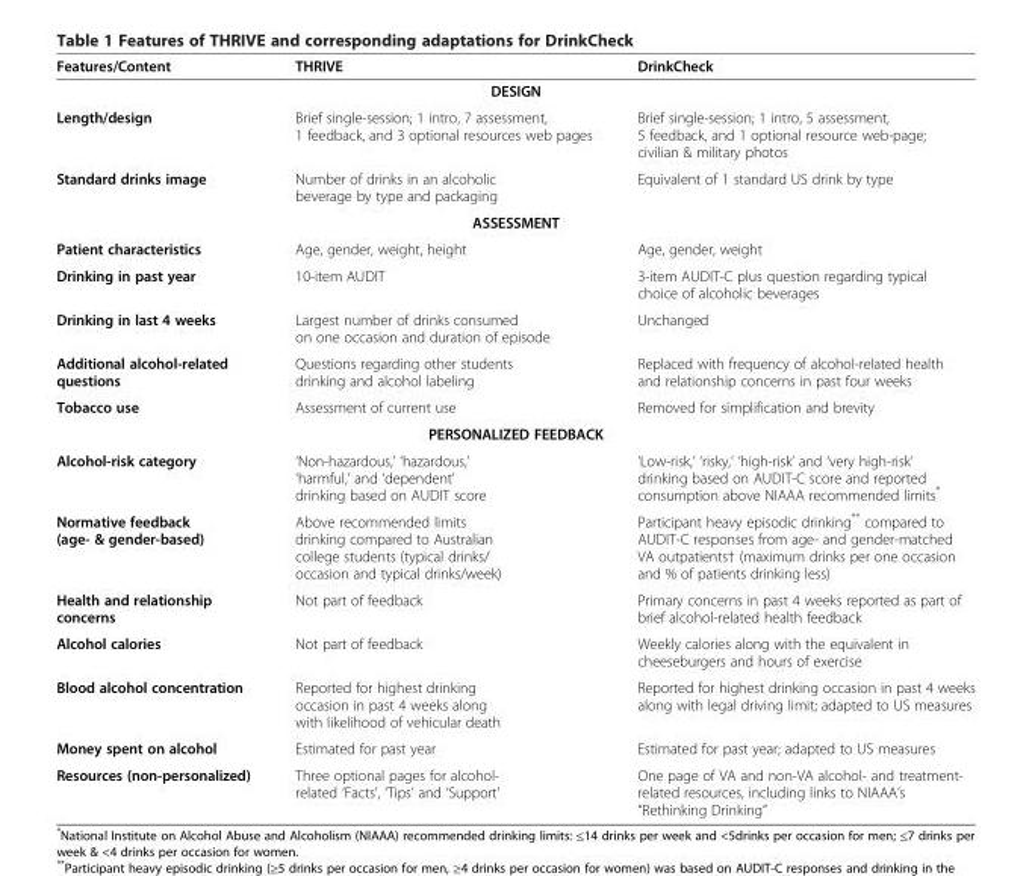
<table><thead><tr><td>Features/Content</td><td>THRIVE</td><td>DrinkCheck</td></tr></thead><tbody><tr><td colspan="3">DESIGN</td></tr><tr><td>Length/design</td><td>Brief single-session; 1 intro, 7 assessment, 1 feedback, and 3 optional resources web pages</td><td>Brief single-session; 1 intro, 5 assessment, 5 feedback, and 1 optional resource web-page; civilian &amp; military photos</td></tr><tr><td>Standard drinks image</td><td>Number of drinks in an alcoholic beverage by type and packaging</td><td>Equivalent of 1 standard US drink by type</td></tr><tr><td colspan="3">ASSESSMENT</td></tr><tr><td>Patient characteristics</td><td>Age, gender, weight, height</td><td>Age, gender, weight</td></tr><tr><td>Drinking in past year</td><td>10-item AUDIT</td><td>3-item AUDIT-C plus question regarding typical choice of alcoholic beverages</td></tr><tr><td>Drinking in last 4 weeks</td><td>Largest number of drinks consumed on one occasion and duration of episode</td><td>Unchanged</td></tr><tr><td>Additional alcohol-related questions</td><td>Questions regarding other students drinking and alcohol labeling</td><td>Replaced with frequency of alcohol-related health and relationship concerns in past four weeks</td></tr><tr><td>Tobacco use</td><td>Assessment of current use</td><td>Removed for simplification and brevity</td></tr><tr><td colspan="3">PERSONALIZED FEEDBACK</td></tr><tr><td>Alcohol-risk category</td><td>‘Non-hazardous,’ ‘hazardous,’ ‘harmful,’ and ‘dependent’ drinking based on AUDIT score</td><td>‘Low-risk,’ ‘risky,’ ‘high-risk’ and ‘very high-risk’ drinking based on AUDIT-C score and reported consumption above NIAAA recommended limits*</td></tr><tr><td>Normative feedback (age- &amp; gender-based)</td><td>Above recommended limits drinking compared to Australian college students (typical drinks/ occasion and typical drinks/week)</td><td>Participant heavy episodic drinking** compared to AUDIT-C responses from age- and gender-matched VA outpatients† (maximum drinks per one occasion and % of patients drinking less)</td></tr><tr><td>Health and relationship concerns</td><td>Not part of feedback</td><td>Primary concerns in past 4 weeks reported as part of brief alcohol-related health feedback</td></tr><tr><td>Alcohol calories</td><td>Not part of feedback</td><td>Weekly calories along with the equivalent in cheeseburgers and hours of exercise</td></tr><tr><td>Blood alcohol concentration</td><td>Reported for highest drinking occasion in past 4 weeks along with likelihood of vehicular death</td><td>Reported for highest drinking occasion in past 4 weeks along with legal driving limit; adapted to US measures</td></tr><tr><td>Money spent on alcohol</td><td>Estimated for past year</td><td>Estimated for past year; adapted to US measures</td></tr><tr><td>Resources (non-personalized)</td><td>Three optional pages for alcohol- related ‘Facts’, ‘Tips’ and ‘Support’</td><td>One page of VA and non-VA alcohol- and treatment- related resources, including links to NIAAA’s “Rethinking Drinking”</td></tr></tbody></table>